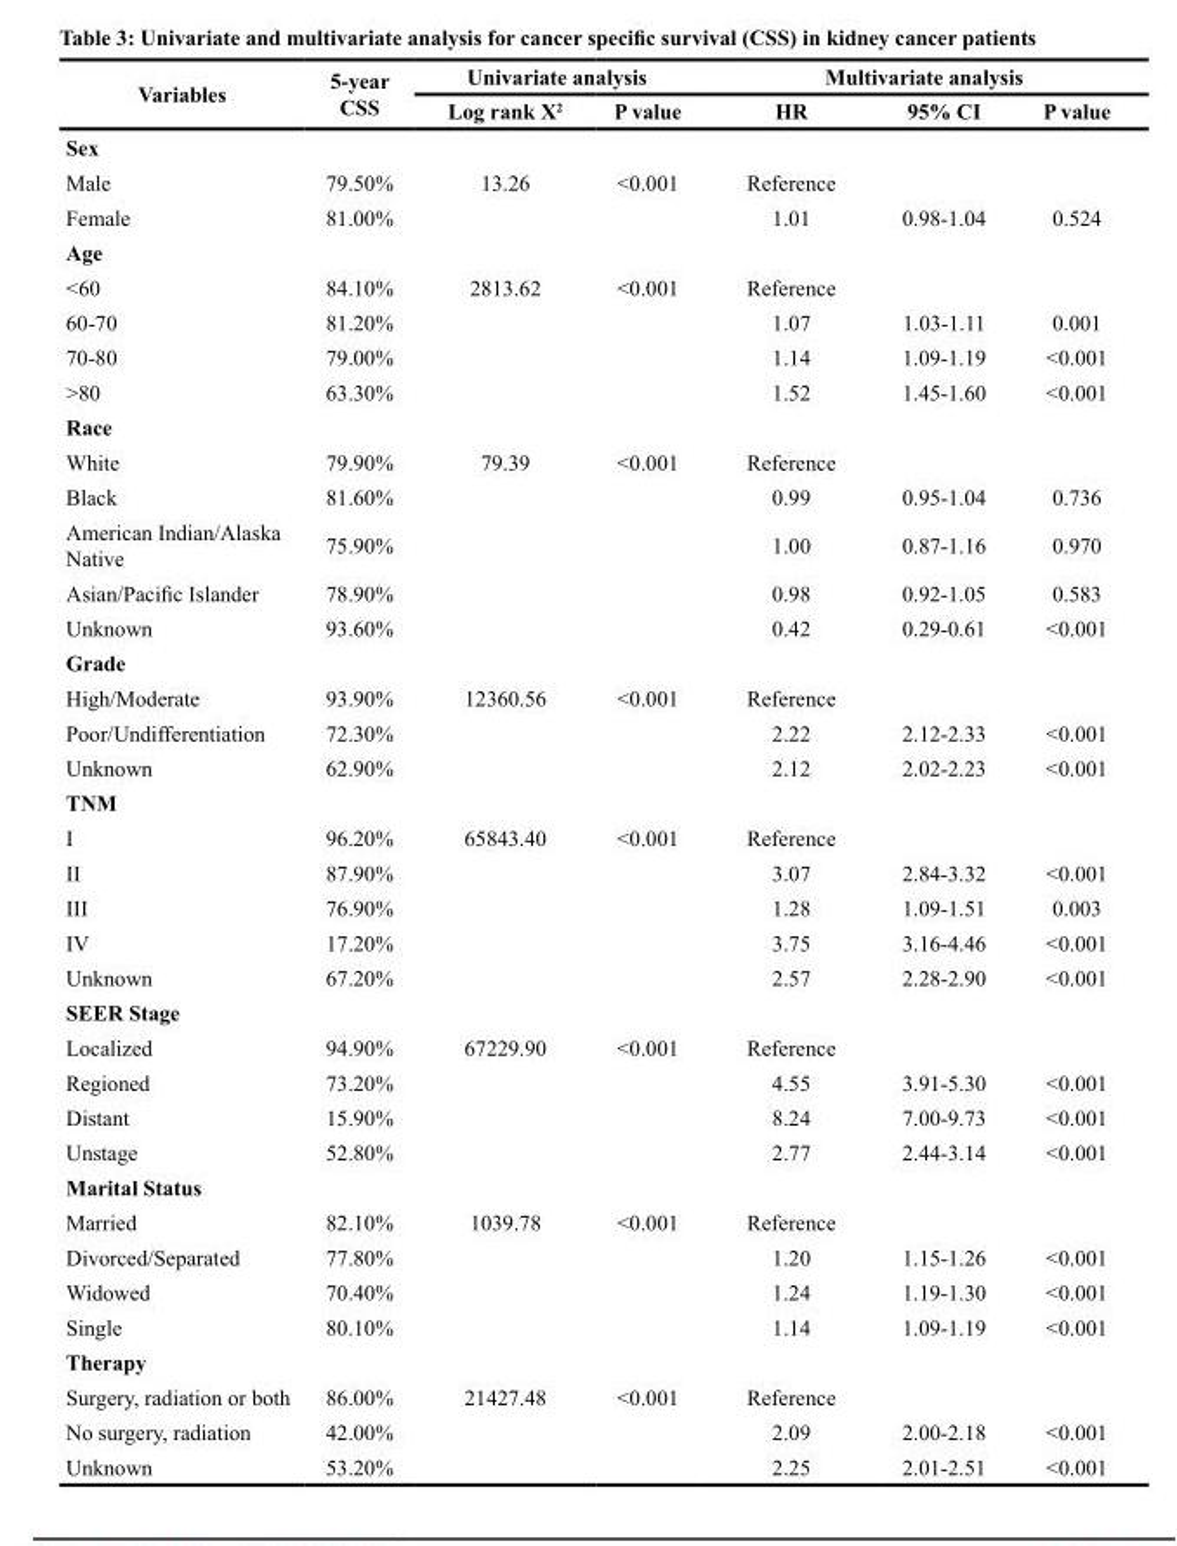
<table><thead><tr><td rowspan="2">Variables</td><td rowspan="2">5-year CSS</td><td colspan="2">Univariate analysis</td><td colspan="3">Multivariate analysis</td></tr><tr><td>Log rank Χ<sup>2</sup></td><td>P value</td><td>HR</td><td>95% CI</td><td>P value</td></tr></thead><tbody><tr><td colspan="7">Sex</td></tr><tr><td>Male</td><td>79.50%</td><td>13.26</td><td>&lt;0.001</td><td>Reference</td><td></td><td></td></tr><tr><td>Female</td><td>81.00%</td><td></td><td></td><td>1.01</td><td>0.98-1.04</td><td>0.524</td></tr><tr><td colspan="7">Age</td></tr><tr><td>&lt;60</td><td>84.10%</td><td>2813.62</td><td>&lt;0.001</td><td>Reference</td><td></td><td></td></tr><tr><td>60-70</td><td>81.20%</td><td></td><td></td><td>1.07</td><td>1.03-1.11</td><td>0.001</td></tr><tr><td>70-80</td><td>79.00%</td><td></td><td></td><td>1.14</td><td>1.09-1.19</td><td>&lt;0.001</td></tr><tr><td>&gt;80</td><td>63.30%</td><td></td><td></td><td>1.52</td><td>1.45-1.60</td><td>&lt;0.001</td></tr><tr><td colspan="7">Race</td></tr><tr><td>White</td><td>79.90%</td><td>79.39</td><td>&lt;0.001</td><td>Reference</td><td></td><td></td></tr><tr><td>Black</td><td>81.60%</td><td></td><td></td><td>0.99</td><td>0.95-1.04</td><td>0.736</td></tr><tr><td>American Indian/Alaska Native</td><td>75.90%</td><td></td><td></td><td>1.00</td><td>0.87-1.16</td><td>0.970</td></tr><tr><td>Asian/Pacific Islander</td><td>78.90%</td><td></td><td></td><td>0.98</td><td>0.92-1.05</td><td>0.583</td></tr><tr><td>Unknown</td><td>93.60%</td><td></td><td></td><td>0.42</td><td>0.29-0.61</td><td>&lt;0.001</td></tr><tr><td colspan="7">Grade</td></tr><tr><td>High/Moderate</td><td>93.90%</td><td>12360.56</td><td>&lt;0.001</td><td>Reference</td><td></td><td></td></tr><tr><td>Poor/Undifferentiation</td><td>72.30%</td><td></td><td></td><td>2.22</td><td>2.12-2.33</td><td>&lt;0.001</td></tr><tr><td>Unknown</td><td>62.90%</td><td></td><td></td><td>2.12</td><td>2.02-2.23</td><td>&lt;0.001</td></tr><tr><td colspan="7">TNM</td></tr><tr><td>I</td><td>96.20%</td><td>65843.40</td><td>&lt;0.001</td><td>Reference</td><td></td><td></td></tr><tr><td>II</td><td>87.90%</td><td></td><td></td><td>3.07</td><td>2.84-3.32</td><td>&lt;0.001</td></tr><tr><td>III</td><td>76.90%</td><td></td><td></td><td>1.28</td><td>1.09-1.51</td><td>0.003</td></tr><tr><td>IV</td><td>17.20%</td><td></td><td></td><td>3.75</td><td>3.16-4.46</td><td>&lt;0.001</td></tr><tr><td>Unknown</td><td>67.20%</td><td></td><td></td><td>2.57</td><td>2.28-2.90</td><td>&lt;0.001</td></tr><tr><td colspan="7">SEER Stage</td></tr><tr><td>Localized</td><td>94.90%</td><td>67229.90</td><td>&lt;0.001</td><td>Reference</td><td></td><td></td></tr><tr><td>Regioned</td><td>73.20%</td><td></td><td></td><td>4.55</td><td>3.91-5.30</td><td>&lt;0.001</td></tr><tr><td>Distant</td><td>15.90%</td><td></td><td></td><td>8.24</td><td>7.00-9.73</td><td>&lt;0.001</td></tr><tr><td>Unstage</td><td>52.80%</td><td></td><td></td><td>2.77</td><td>2.44-3.14</td><td>&lt;0.001</td></tr><tr><td colspan="7">Marital Status</td></tr><tr><td>Married</td><td>82.10%</td><td>1039.78</td><td>&lt;0.001</td><td>Reference</td><td></td><td></td></tr><tr><td>Divorced/Separated</td><td>77.80%</td><td></td><td></td><td>1.20</td><td>1.15-1.26</td><td>&lt;0.001</td></tr><tr><td>Widowed</td><td>70.40%</td><td></td><td></td><td>1.24</td><td>1.19-1.30</td><td>&lt;0.001</td></tr><tr><td>Single</td><td>80.10%</td><td></td><td></td><td>1.14</td><td>1.09-1.19</td><td>&lt;0.001</td></tr><tr><td colspan="7">Therapy</td></tr><tr><td>Surgery, radiation or both</td><td>86.00%</td><td>21427.48</td><td>&lt;0.001</td><td>Reference</td><td></td><td></td></tr><tr><td>No surgery, radiation</td><td>42.00%</td><td></td><td></td><td>2.09</td><td>2.00-2.18</td><td>&lt;0.001</td></tr><tr><td>Unknown</td><td>53.20%</td><td></td><td></td><td>2.25</td><td>2.01-2.51</td><td>&lt;0.001</td></tr></tbody></table>